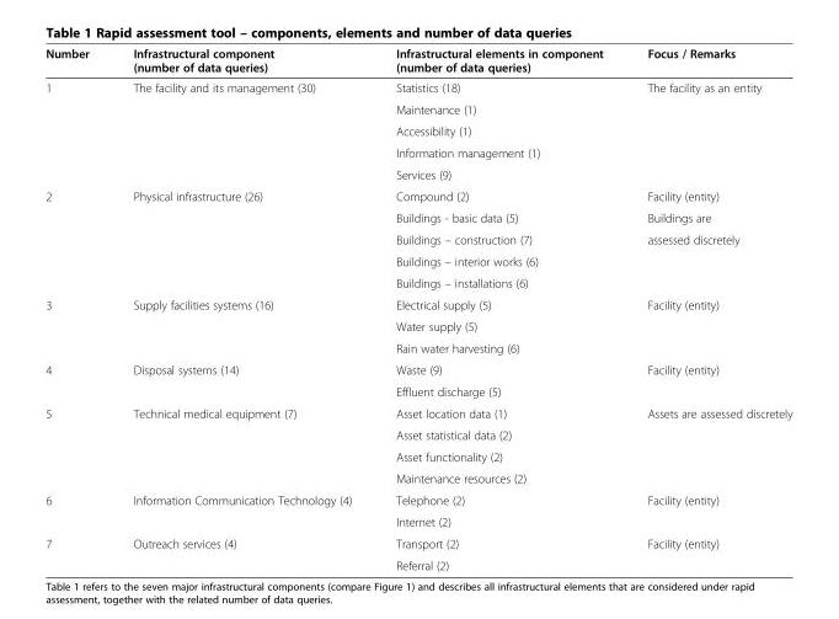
<table><thead><tr><td>Number</td><td>Infrastructural component (number of data queries)</td><td>Infrastructural elements in component (number of data queries)</td><td>Focus / Remarks</td></tr></thead><tbody><tr><td rowspan="5">1</td><td rowspan="5">The facility and its management (30)</td><td>Statistics (18)</td><td rowspan="5">The facility as an entity</td></tr><tr><td>Maintenance (1)</td></tr><tr><td>Accessibility (1)</td></tr><tr><td>Information management (1)</td></tr><tr><td>Services (9)</td></tr><tr><td rowspan="5">2</td><td rowspan="5">Physical infrastructure (26)</td><td>Compound (2)</td><td>Facility (entity)</td></tr><tr><td>Buildings - basic data (5)</td><td>Buildings are</td></tr><tr><td>Buildings – construction (7)</td><td rowspan="3">assessed discretely</td></tr><tr><td>Buildings – interior works (6)</td></tr><tr><td>Buildings – installations (6)</td></tr><tr><td rowspan="3">3</td><td rowspan="3">Supply facilities systems (16)</td><td>Electrical supply (5)</td><td rowspan="3">Facility (entity)</td></tr><tr><td>Water supply (5)</td></tr><tr><td>Rain water harvesting (6)</td></tr><tr><td rowspan="2">4</td><td rowspan="2">Disposal systems (14)</td><td>Waste (9)</td><td rowspan="2">Facility (entity)</td></tr><tr><td>Effluent discharge (5)</td></tr><tr><td rowspan="4">5</td><td rowspan="4">Technical medical equipment (7)</td><td>Asset location data (1)</td><td rowspan="4">Assets are assessed discretely</td></tr><tr><td>Asset statistical data (2)</td></tr><tr><td>Asset functionality (2)</td></tr><tr><td>Maintenance resources (2)</td></tr><tr><td rowspan="2">6</td><td rowspan="2">Information Communication Technology (4)</td><td>Telephone (2)</td><td rowspan="2">Facility (entity)</td></tr><tr><td>Internet (2)</td></tr><tr><td rowspan="2">7</td><td rowspan="2">Outreach services (4)</td><td>Transport (2)</td><td rowspan="2">Facility (entity)</td></tr><tr><td>Referral (2)</td></tr></tbody></table>